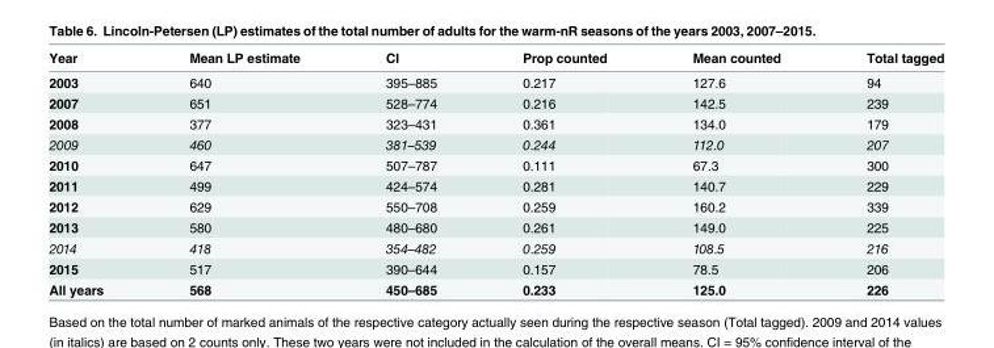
<table><thead><tr><td>Year</td><td>Mean LP estimate</td><td>CI</td><td>Prop counted</td><td>Mean counted</td><td>Total tagged</td></tr></thead><tbody><tr><td>2003</td><td>640</td><td>395–885</td><td>0.217</td><td>127.6</td><td>94</td></tr><tr><td>2007</td><td>651</td><td>528–774</td><td>0.216</td><td>142.5</td><td>239</td></tr><tr><td>2008</td><td>377</td><td>323–431</td><td>0.361</td><td>134.0</td><td>179</td></tr><tr><td>2009</td><td>460</td><td>381–539</td><td>0.244</td><td>112.0</td><td>207</td></tr><tr><td>2010</td><td>647</td><td>507–787</td><td>0.111</td><td>67.3</td><td>300</td></tr><tr><td>2011</td><td>499</td><td>424–574</td><td>0.281</td><td>140.7</td><td>229</td></tr><tr><td>2012</td><td>629</td><td>550–708</td><td>0.259</td><td>160.2</td><td>339</td></tr><tr><td>2013</td><td>580</td><td>480–680</td><td>0.261</td><td>149.0</td><td>225</td></tr><tr><td>2014</td><td>418</td><td>354–482</td><td>0.259</td><td>108.5</td><td>216</td></tr><tr><td>2015</td><td>517</td><td>390–644</td><td>0.157</td><td>78.5</td><td>206</td></tr><tr><td>All years</td><td>568</td><td>450–685</td><td>0.233</td><td>125.0</td><td>226</td></tr></tbody></table>